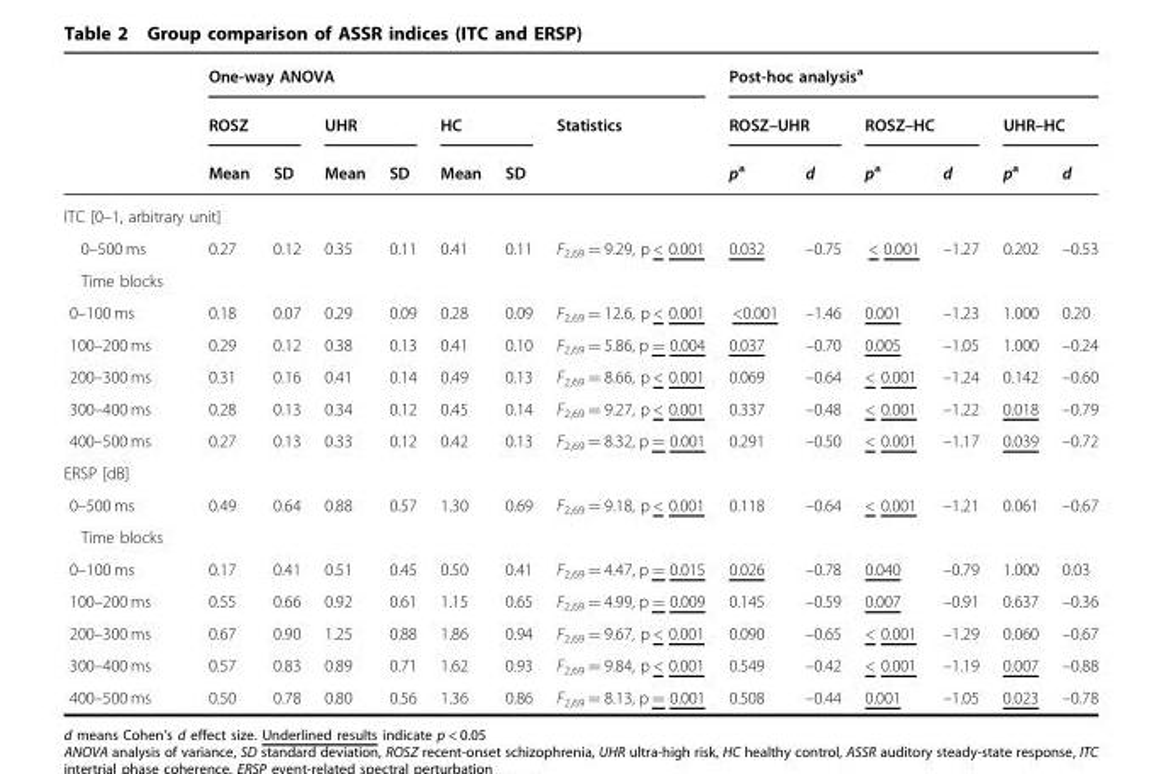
<table><thead><tr><td rowspan="3"></td><td colspan="7">One-way ANOVA</td><td colspan="6">Post-hoc analysis<sup>a</sup></td></tr><tr><td colspan="2">ROSZ</td><td colspan="2">UHR</td><td colspan="2">HC</td><td rowspan="2">Statistics</td><td colspan="2">ROSZ–UHR</td><td colspan="2">ROSZ–HC</td><td colspan="2">UHR–HC</td></tr><tr><td>Mean</td><td>SD</td><td>Mean</td><td>SD</td><td>Mean</td><td>SD</td><td>p<sup>a</sup></td><td>d</td><td>p<sup>a</sup></td><td>d</td><td>p<sup>a</sup></td><td>d</td></tr></thead><tbody><tr><td colspan="14">ITC [0–1, arbitrary unit]</td></tr><tr><td>0–500 ms</td><td>0.27</td><td>0.12</td><td>0.35</td><td>0.11</td><td>0.41</td><td>0.11</td><td>F<sub>2,69</sub> = 9.29, p &lt; 0.001</td><td>0.032</td><td>–0.75</td><td>&lt; 0.001</td><td>–1.27</td><td>0.202</td><td>–0.53</td></tr><tr><td colspan="14">Time blocks</td></tr><tr><td>0–100 ms</td><td>0.18</td><td>0.07</td><td>0.29</td><td>0.09</td><td>0.28</td><td>0.09</td><td>F<sub>2,69</sub> = 12.6, p &lt; 0.001</td><td>&lt;0.001</td><td>–1.46</td><td>0.001</td><td>–1.23</td><td>1.000</td><td>0.20</td></tr><tr><td>100–200 ms</td><td>0.29</td><td>0.12</td><td>0.38</td><td>0.13</td><td>0.41</td><td>0.10</td><td>F<sub>2,69</sub> = 5.86, p = 0.004</td><td>0.037</td><td>–0.70</td><td>0.005</td><td>–1.05</td><td>1.000</td><td>–0.24</td></tr><tr><td>200–300 ms</td><td>0.31</td><td>0.16</td><td>0.41</td><td>0.14</td><td>0.49</td><td>0.13</td><td>F<sub>2,69</sub> = 8.66, p &lt; 0.001</td><td>0.069</td><td>–0.64</td><td>&lt; 0.001</td><td>–1.24</td><td>0.142</td><td>–0.60</td></tr><tr><td>300–400 ms</td><td>0.28</td><td>0.13</td><td>0.34</td><td>0.12</td><td>0.45</td><td>0.14</td><td>F<sub>2,69</sub> = 9.27, p &lt; 0.001</td><td>0.337</td><td>–0.48</td><td>&lt; 0.001</td><td>–1.22</td><td>0.018</td><td>–0.79</td></tr><tr><td>400–500 ms</td><td>0.27</td><td>0.13</td><td>0.33</td><td>0.12</td><td>0.42</td><td>0.13</td><td>F<sub>2,69</sub> = 8.32, p = 0.001</td><td>0.291</td><td>–0.50</td><td>&lt; 0.001</td><td>–1.17</td><td>0.039</td><td>–0.72</td></tr><tr><td colspan="14">ERSP [dB]</td></tr><tr><td>0–500 ms</td><td>0.49</td><td>0.64</td><td>0.88</td><td>0.57</td><td>1.30</td><td>0.69</td><td>F<sub>2,69</sub> = 9.18, p &lt; 0.001</td><td>0.118</td><td>–0.64</td><td>&lt; 0.001</td><td>–1.21</td><td>0.061</td><td>–0.67</td></tr><tr><td colspan="14">Time blocks</td></tr><tr><td>0–100 ms</td><td>0.17</td><td>0.41</td><td>0.51</td><td>0.45</td><td>0.50</td><td>0.41</td><td>F<sub>2,69</sub> = 4.47, p = 0.015</td><td>0.026</td><td>–0.78</td><td>0.040</td><td>–0.79</td><td>1.000</td><td>0.03</td></tr><tr><td>100–200 ms</td><td>0.55</td><td>0.66</td><td>0.92</td><td>0.61</td><td>1.15</td><td>0.65</td><td>F<sub>2,69</sub> = 4.99, p = 0.009</td><td>0.145</td><td>–0.59</td><td>0.007</td><td>–0.91</td><td>0.637</td><td>–0.36</td></tr><tr><td>200–300 ms</td><td>0.67</td><td>0.90</td><td>1.25</td><td>0.88</td><td>1.86</td><td>0.94</td><td>F<sub>2,69</sub> = 9.67, p &lt; 0.001</td><td>0.090</td><td>–0.65</td><td>&lt; 0.001</td><td>–1.29</td><td>0.060</td><td>–0.67</td></tr><tr><td>300–400 ms</td><td>0.57</td><td>0.83</td><td>0.89</td><td>0.71</td><td>1.62</td><td>0.93</td><td>F<sub>2,69</sub> = 9.84, p &lt; 0.001</td><td>0.549</td><td>–0.42</td><td>&lt; 0.001</td><td>–1.19</td><td>0.007</td><td>–0.88</td></tr><tr><td>400–500 ms</td><td>0.50</td><td>0.78</td><td>0.80</td><td>0.56</td><td>1.36</td><td>0.86</td><td>F<sub>2,69</sub> = 8.13, p = 0.001</td><td>0.508</td><td>–0.44</td><td>0.001</td><td>–1.05</td><td>0.023</td><td>–0.78</td></tr></tbody></table>